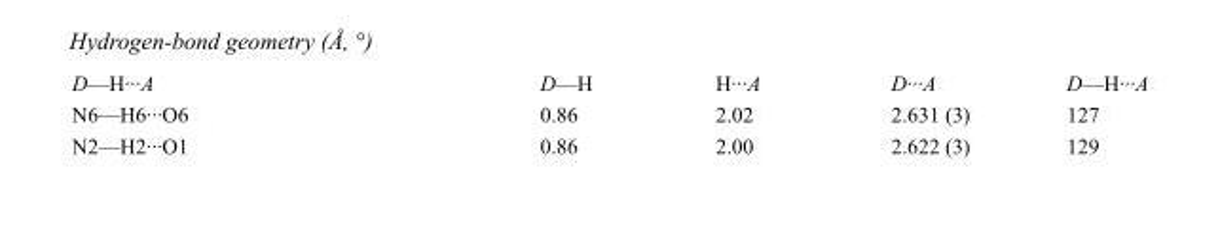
<table><tbody><tr><td>D—H···A</td><td>D—H</td><td>H···A</td><td>D···A</td><td>D—H···A</td></tr><tr><td>N6—H6···O6</td><td>0.86</td><td>2.02</td><td>2.631 (3)</td><td>127</td></tr><tr><td>N2—H2···O1</td><td>0.86</td><td>2.00</td><td>2.622 (3)</td><td>129</td></tr></tbody></table>